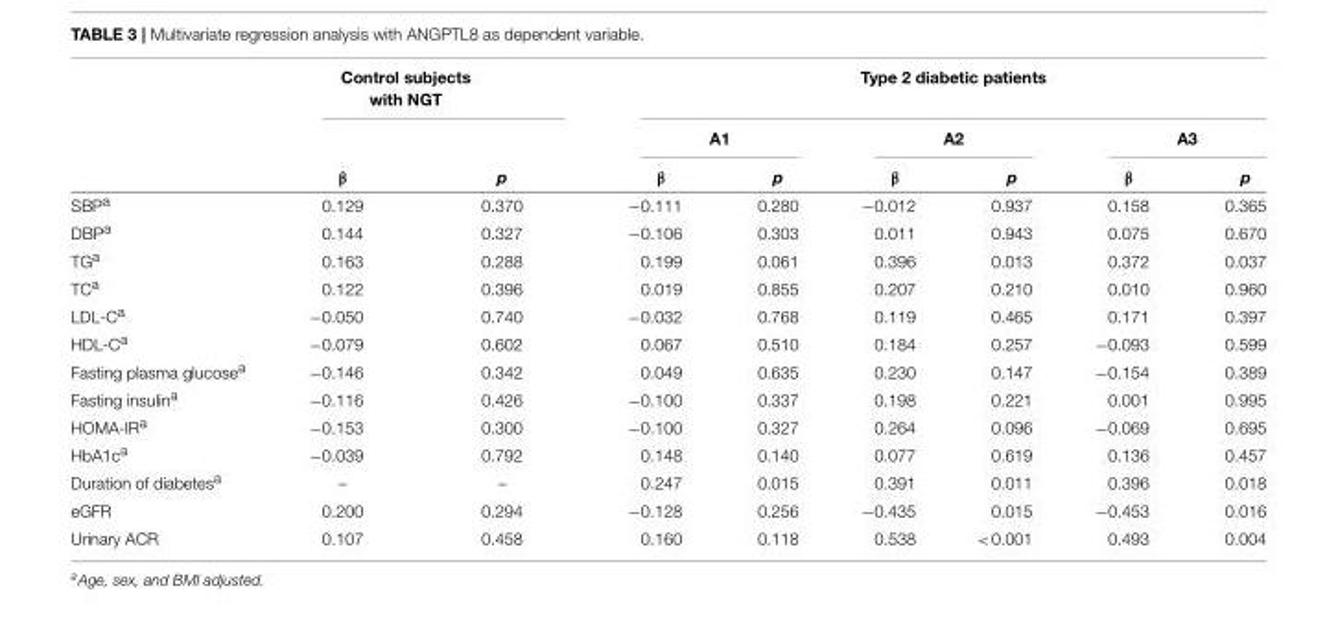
<table><thead><tr><td rowspan="3"></td><td colspan="2">Control subjects with NGT</td><td colspan="6">Type 2 diabetic patients</td></tr><tr><td rowspan="2">β</td><td rowspan="2">p</td><td colspan="2">A1</td><td colspan="2">A2</td><td colspan="2">A3</td></tr><tr><td>β</td><td>p</td><td>β</td><td>p</td><td>β</td><td>p</td></tr></thead><tbody><tr><td>SBP<sup>a</sup></td><td>0.129</td><td>0.370</td><td>−0.111</td><td>0.280</td><td>−0.012</td><td>0.937</td><td>0.158</td><td>0.365</td></tr><tr><td>DBP<sup>a</sup></td><td>0.144</td><td>0.327</td><td>−0.106</td><td>0.303</td><td>0.011</td><td>0.943</td><td>0.075</td><td>0.670</td></tr><tr><td>TG<sup>a</sup></td><td>0.163</td><td>0.288</td><td>0.199</td><td>0.061</td><td>0.396</td><td>0.013</td><td>0.372</td><td>0.037</td></tr><tr><td>TC<sup>a</sup></td><td>0.122</td><td>0.396</td><td>0.019</td><td>0.855</td><td>0.207</td><td>0.210</td><td>0.010</td><td>0.960</td></tr><tr><td>LDL-C<sup>a</sup></td><td>−0.050</td><td>0.740</td><td>−0.032</td><td>0.768</td><td>0.119</td><td>0.465</td><td>0.171</td><td>0.397</td></tr><tr><td>HDL-C<sup>a</sup></td><td>−0.079</td><td>0.602</td><td>0.067</td><td>0.510</td><td>0.184</td><td>0.257</td><td>−0.093</td><td>0.599</td></tr><tr><td>Fasting plasma glucose<sup>a</sup></td><td>−0.146</td><td>0.342</td><td>0.049</td><td>0.635</td><td>0.230</td><td>0.147</td><td>−0.154</td><td>0.389</td></tr><tr><td>Fasting insulin<sup>a</sup></td><td>−0.116</td><td>0.426</td><td>−0.100</td><td>0.337</td><td>0.198</td><td>0.221</td><td>0.001</td><td>0.995</td></tr><tr><td>HOMA-IR<sup>a</sup></td><td>−0.153</td><td>0.300</td><td>−0.100</td><td>0.327</td><td>0.264</td><td>0.096</td><td>−0.069</td><td>0.695</td></tr><tr><td>HbA1c<sup>a</sup></td><td>−0.039</td><td>0.792</td><td>0.148</td><td>0.140</td><td>0.077</td><td>0.619</td><td>0.136</td><td>0.457</td></tr><tr><td>Duration of diabetes<sup>a</sup></td><td>–</td><td>–</td><td>0.247</td><td>0.015</td><td>0.391</td><td>0.011</td><td>0.396</td><td>0.018</td></tr><tr><td>eGFR</td><td>0.200</td><td>0.294</td><td>−0.128</td><td>0.256</td><td>−0.435</td><td>0.015</td><td>−0.453</td><td>0.016</td></tr><tr><td>Urinary ACR</td><td>0.107</td><td>0.458</td><td>0.160</td><td>0.118</td><td>0.538</td><td>&lt;0.001</td><td>0.493</td><td>0.004</td></tr></tbody></table>